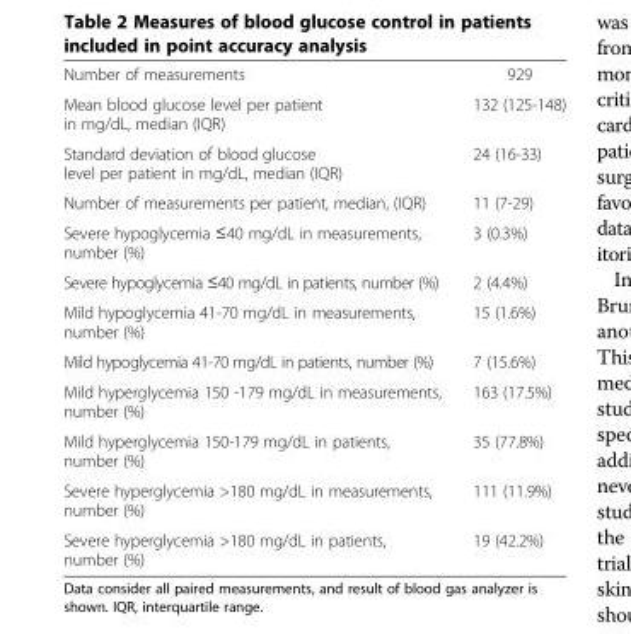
<table><tbody><tr><td>Number of measurements</td><td>929</td></tr><tr><td>Mean blood glucose level per patient in mg/dL, median (IQR)</td><td>132 (125-148)</td></tr><tr><td>Standard deviation of blood glucose level per patient in mg/dL, median (IQR)</td><td>24 (16-33)</td></tr><tr><td>Number of measurements per patient, median, (IQR)</td><td>11 (7-29)</td></tr><tr><td>Severe hypoglycemia ≤40 mg/dL in measurements, number (%)</td><td>3 (0.3%)</td></tr><tr><td>Severe hypoglycemia ≤40 mg/dL in patients, number (%)</td><td>2 (4.4%)</td></tr><tr><td>Mild hypoglycemia 41-70 mg/dL in measurements, number (%)</td><td>15 (1.6%)</td></tr><tr><td>Mild hypoglycemia 41-70 mg/dL in patients, number (%)</td><td>7 (15.6%)</td></tr><tr><td>Mild hyperglycemia 150 -179 mg/dL in measurements, number (%)</td><td>163 (17.5%)</td></tr><tr><td>Mild hyperglycemia 150-179 mg/dL in patients, number (%)</td><td>35 (77.8%)</td></tr><tr><td>Severe hyperglycemia &gt;180 mg/dL in measurements, number (%)</td><td>111 (11.9%)</td></tr><tr><td>Severe hyperglycemia &gt;180 mg/dL in patients, number (%)</td><td>19 (42.2%)</td></tr></tbody></table>